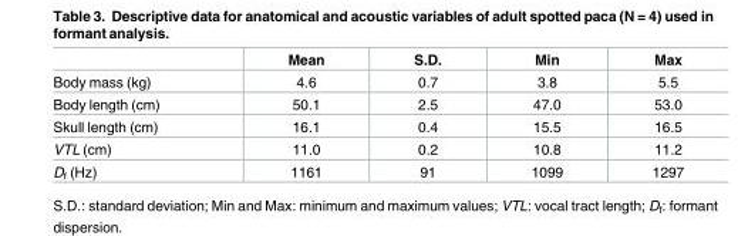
<table><thead><tr><td></td><td>Mean</td><td>S.D.</td><td>Min</td><td>Max</td></tr></thead><tbody><tr><td>Body mass (kg)</td><td>4.6</td><td>0.7</td><td>3.8</td><td>5.5</td></tr><tr><td>Body length (cm)</td><td>50.1</td><td>2.5</td><td>47.0</td><td>53.0</td></tr><tr><td>Skull length (cm)</td><td>16.1</td><td>0.4</td><td>15.5</td><td>16.5</td></tr><tr><td>VTL (cm)</td><td>11.0</td><td>0.2</td><td>10.8</td><td>11.2</td></tr><tr><td>D<sub>f</sub> (Hz)</td><td>1161</td><td>91</td><td>1099</td><td>1297</td></tr></tbody></table>